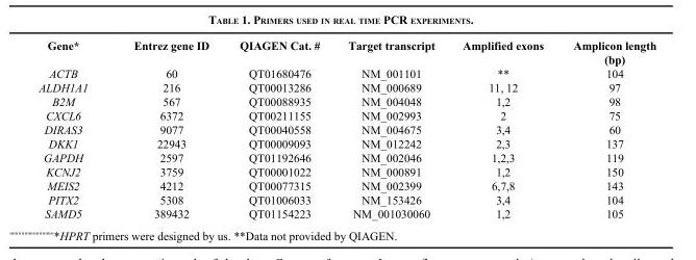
<table><thead><tr><td>Gene*</td><td>Entrez gene ID</td><td>QIAGEN Cat. #</td><td>Target transcript</td><td>Amplified exons</td><td>Amplicon length (bp)</td></tr></thead><tbody><tr><td>ACTB</td><td>60</td><td>QT01680476</td><td>NM_001101</td><td>**</td><td>104</td></tr><tr><td>ALDH1A1</td><td>216</td><td>QT00013286</td><td>NM_000689</td><td>11, 12</td><td>97</td></tr><tr><td>B2M</td><td>567</td><td>QT00088935</td><td>NM_004048</td><td>1,2</td><td>98</td></tr><tr><td>CXCL6</td><td>6372</td><td>QT00211155</td><td>NM_002993</td><td>2</td><td>75</td></tr><tr><td>DIRAS3</td><td>9077</td><td>QT00040558</td><td>NM_004675</td><td>3,4</td><td>60</td></tr><tr><td>DKK1</td><td>22943</td><td>QT00009093</td><td>NM_012242</td><td>2,3</td><td>137</td></tr><tr><td>GAPDH</td><td>2597</td><td>QT01192646</td><td>NM_002046</td><td>1,2,3</td><td>119</td></tr><tr><td>KCNJ2</td><td>3759</td><td>QT00001022</td><td>NM_000891</td><td>1,2</td><td>150</td></tr><tr><td>MEIS2</td><td>4212</td><td>QT00077315</td><td>NM_002399</td><td>6,7,8</td><td>143</td></tr><tr><td>PITX2</td><td>5308</td><td>QT01006033</td><td>NM_153426</td><td>3,4</td><td>104</td></tr><tr><td>SAMD5</td><td>389432</td><td>QT01154223</td><td>NM_001030060</td><td>1,2</td><td>105</td></tr></tbody></table>